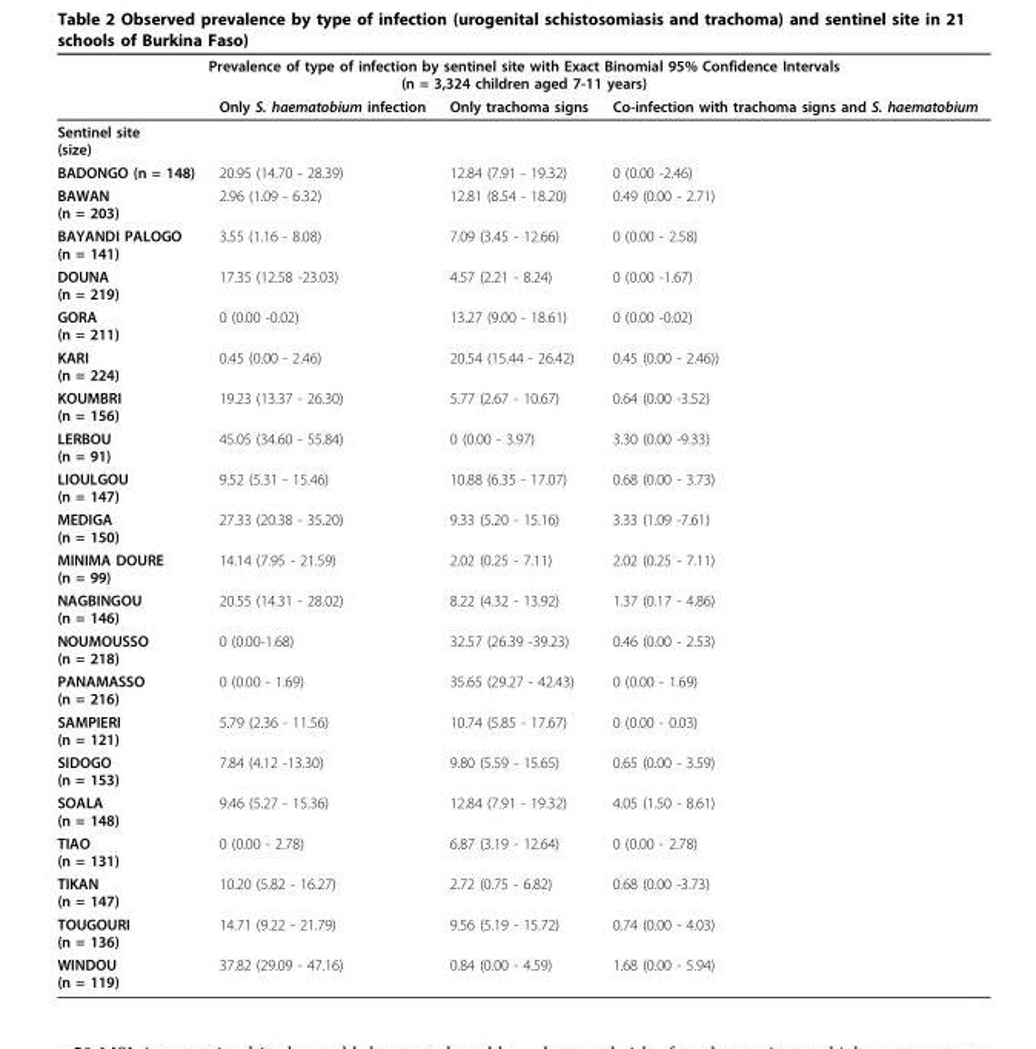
<table><thead><tr><td colspan="4">Prevalence of type of infection by sentinel site with Exact Binomial 95% Confidence Intervals (n = 3,324 children aged 7-11 years)</td></tr><tr><td></td><td>Only S. haematobium infection</td><td>Only trachoma signs</td><td>Co-infection with trachoma signs and S. haematobium</td></tr></thead><tbody><tr><td colspan="4">Sentinel site (size)</td></tr><tr><td>BADONGO (n = 148)</td><td>20.95 (14.70 - 28.39)</td><td>12.84 (7.91 - 19.32)</td><td>0 (0.00 -2.46)</td></tr><tr><td>BAWAN (n = 203)</td><td>2.96 (1.09 - 6.32)</td><td>12.81 (8.54 - 18.20)</td><td>0.49 (0.00 - 2.71)</td></tr><tr><td>BAYANDI PALOGO (n = 141)</td><td>3.55 (1.16 - 8.08)</td><td>7.09 (3.45 - 12.66)</td><td>0 (0.00 - 2.58)</td></tr><tr><td>DOUNA (n = 219)</td><td>17.35 (12.58 -23.03)</td><td>4.57 (2.21 - 8.24)</td><td>0 (0.00 -1.67)</td></tr><tr><td>GORA (n = 211)</td><td>0 (0.00 -0.02)</td><td>13.27 (9.00 - 18.61)</td><td>0 (0.00 -0.02)</td></tr><tr><td>KARI (n = 224)</td><td>0.45 (0.00 - 2.46)</td><td>20.54 (15.44 - 26.42)</td><td>0.45 (0.00 - 2.46))</td></tr><tr><td>KOUMBRI (n = 156)</td><td>19.23 (13.37 - 26.30)</td><td>5.77 (2.67 - 10.67)</td><td>0.64 (0.00 -3.52)</td></tr><tr><td>LERBOU (n = 91)</td><td>45.05 (34.60 - 55.84)</td><td>0 (0.00 - 3.97)</td><td>3.30 (0.00 -9.33)</td></tr><tr><td>LIOULGOU (n = 147)</td><td>9.52 (5.31 - 15.46)</td><td>10.88 (6.35 - 17.07)</td><td>0.68 (0.00 - 3.73)</td></tr><tr><td>MEDIGA (n = 150)</td><td>27.33 (20.38 - 35.20)</td><td>9.33 (5.20 - 15.16)</td><td>3.33 (1.09 -7.61)</td></tr><tr><td>MINIMA DOURE (n = 99)</td><td>14.14 (7.95 - 21.59)</td><td>2.02 (0.25 - 7.11)</td><td>2.02 (0.25 - 7.11)</td></tr><tr><td>NAGBINGOU (n = 146)</td><td>20.55 (14.31 - 28.02)</td><td>8.22 (4.32 - 13.92)</td><td>1.37 (0.17 - 4.86)</td></tr><tr><td>NOUMOUSSO (n = 218)</td><td>0 (0.00-1.68)</td><td>32.57 (26.39 -39.23)</td><td>0.46 (0.00 - 2.53)</td></tr><tr><td>PANAMASSO (n = 216)</td><td>0 (0.00 - 1.69)</td><td>35.65 (29.27 - 42.43)</td><td>0 (0.00 - 1.69)</td></tr><tr><td>SAMPIERI (n = 121)</td><td>5.79 (2.36 - 11.56)</td><td>10.74 (5.85 - 17.67)</td><td>0 (0.00 - 0.03)</td></tr><tr><td>SIDOGO (n = 153)</td><td>7.84 (4.12 -13.30)</td><td>9.80 (5.59 - 15.65)</td><td>0.65 (0.00 - 3.59)</td></tr><tr><td>SOALA (n = 148)</td><td>9.46 (5.27 - 15.36)</td><td>12.84 (7.91 - 19.32)</td><td>4.05 (1.50 - 8.61)</td></tr><tr><td>TIAO (n = 131)</td><td>0 (0.00 - 2.78)</td><td>6.87 (3.19 - 12.64)</td><td>0 (0.00 - 2.78)</td></tr><tr><td>TIKAN (n = 147)</td><td>10.20 (5.82 - 16.27)</td><td>2.72 (0.75 - 6.82)</td><td>0.68 (0.00 -3.73)</td></tr><tr><td>TOUGOURI (n = 136)</td><td>14.71 (9.22 - 21.79)</td><td>9.56 (5.19 - 15.72)</td><td>0.74 (0.00 - 4.03)</td></tr><tr><td>WINDOU (n = 119)</td><td>37.82 (29.09 - 47.16)</td><td>0.84 (0.00 - 4.59)</td><td>1.68 (0.00 - 5.94)</td></tr></tbody></table>